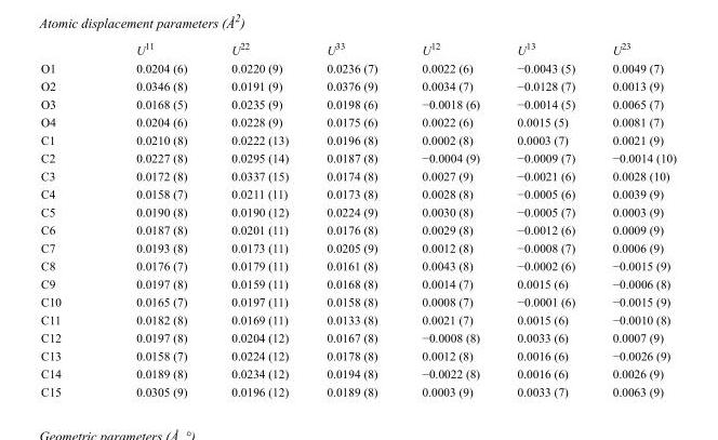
<table><thead><tr><td></td><td>U<sup>11</sup></td><td>U<sup>22</sup></td><td>U<sup>33</sup></td><td>U<sup>12</sup></td><td>U<sup>13</sup></td><td>U<sup>23</sup></td></tr></thead><tbody><tr><td>O1</td><td>0.0204 (6)</td><td>0.0220 (9)</td><td>0.0236 (7)</td><td>0.0022 (6)</td><td>−0.0043 (5)</td><td>0.0049 (7)</td></tr><tr><td>O2</td><td>0.0346 (8)</td><td>0.0191 (9)</td><td>0.0376 (9)</td><td>0.0034 (7)</td><td>−0.0128 (7)</td><td>0.0013 (9)</td></tr><tr><td>O3</td><td>0.0168 (5)</td><td>0.0235 (9)</td><td>0.0198 (6)</td><td>−0.0018 (6)</td><td>−0.0014 (5)</td><td>0.0065 (7)</td></tr><tr><td>O4</td><td>0.0204 (6)</td><td>0.0228 (9)</td><td>0.0175 (6)</td><td>0.0022 (6)</td><td>0.0015 (5)</td><td>0.0081 (7)</td></tr><tr><td>C1</td><td>0.0210 (8)</td><td>0.0222 (13)</td><td>0.0196 (8)</td><td>0.0002 (8)</td><td>0.0003 (7)</td><td>0.0021 (9)</td></tr><tr><td>C2</td><td>0.0227 (8)</td><td>0.0295 (14)</td><td>0.0187 (8)</td><td>−0.0004 (9)</td><td>−0.0009 (7)</td><td>−0.0014 (10)</td></tr><tr><td>C3</td><td>0.0172 (8)</td><td>0.0337 (15)</td><td>0.0174 (8)</td><td>0.0027 (9)</td><td>−0.0021 (6)</td><td>0.0028 (10)</td></tr><tr><td>C4</td><td>0.0158 (7)</td><td>0.0211 (11)</td><td>0.0173 (8)</td><td>0.0028 (8)</td><td>−0.0005 (6)</td><td>0.0039 (9)</td></tr><tr><td>C5</td><td>0.0190 (8)</td><td>0.0190 (12)</td><td>0.0224 (9)</td><td>0.0030 (8)</td><td>−0.0005 (7)</td><td>0.0003 (9)</td></tr><tr><td>C6</td><td>0.0187 (8)</td><td>0.0201 (11)</td><td>0.0176 (8)</td><td>0.0029 (8)</td><td>−0.0012 (6)</td><td>0.0009 (9)</td></tr><tr><td>C7</td><td>0.0193 (8)</td><td>0.0173 (11)</td><td>0.0205 (9)</td><td>0.0012 (8)</td><td>−0.0008 (7)</td><td>0.0006 (9)</td></tr><tr><td>C8</td><td>0.0176 (7)</td><td>0.0179 (11)</td><td>0.0161 (8)</td><td>0.0043 (8)</td><td>−0.0002 (6)</td><td>−0.0015 (9)</td></tr><tr><td>C9</td><td>0.0197 (8)</td><td>0.0159 (11)</td><td>0.0168 (8)</td><td>0.0014 (7)</td><td>0.0015 (6)</td><td>−0.0006 (8)</td></tr><tr><td>C10</td><td>0.0165 (7)</td><td>0.0197 (11)</td><td>0.0158 (8)</td><td>0.0008 (7)</td><td>−0.0001 (6)</td><td>−0.0015 (9)</td></tr><tr><td>C11</td><td>0.0182 (8)</td><td>0.0169 (11)</td><td>0.0133 (8)</td><td>0.0021 (7)</td><td>0.0015 (6)</td><td>−0.0010 (8)</td></tr><tr><td>C12</td><td>0.0197 (8)</td><td>0.0204 (12)</td><td>0.0167 (8)</td><td>−0.0008 (8)</td><td>0.0033 (6)</td><td>0.0007 (9)</td></tr><tr><td>C13</td><td>0.0158 (7)</td><td>0.0224 (12)</td><td>0.0178 (8)</td><td>0.0012 (8)</td><td>0.0016 (6)</td><td>−0.0026 (9)</td></tr><tr><td>C14</td><td>0.0189 (8)</td><td>0.0234 (12)</td><td>0.0194 (8)</td><td>−0.0022 (8)</td><td>0.0016 (6)</td><td>0.0026 (9)</td></tr><tr><td>C15</td><td>0.0305 (9)</td><td>0.0196 (12)</td><td>0.0189 (8)</td><td>0.0003 (9)</td><td>0.0033 (7)</td><td>0.0063 (9)</td></tr></tbody></table>